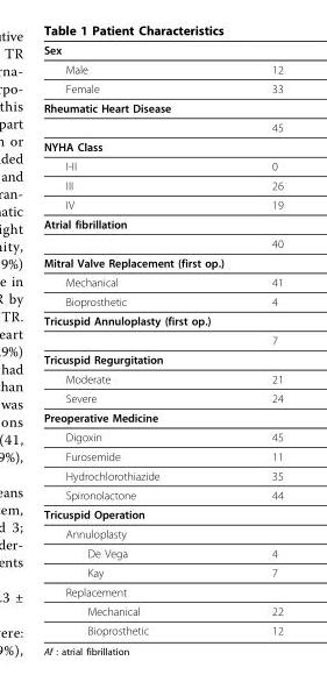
<table><thead><tr><td colspan="2">Sex</td></tr><tr><td>Male</td><td>12</td></tr></thead><tbody><tr><td>Female</td><td>33</td></tr><tr><td colspan="2">Rheumatic Heart Disease</td></tr><tr><td></td><td>45</td></tr><tr><td colspan="2">NYHA Class</td></tr><tr><td>I-II</td><td>0</td></tr><tr><td>III</td><td>26</td></tr><tr><td>IV</td><td>19</td></tr><tr><td colspan="2">Atrial fibrillation</td></tr><tr><td></td><td>40</td></tr><tr><td colspan="2">Mitral Valve Replacement (first op.)</td></tr><tr><td>Mechanical</td><td>41</td></tr><tr><td>Bioprosthetic</td><td>4</td></tr><tr><td colspan="2">Tricuspid Annuloplasty (first op.)</td></tr><tr><td></td><td>7</td></tr><tr><td colspan="2">Tricuspid Regurgitation</td></tr><tr><td>Moderate</td><td>21</td></tr><tr><td>Severe</td><td>24</td></tr><tr><td colspan="2">Preoperative Medicine</td></tr><tr><td>Digoxin</td><td>45</td></tr><tr><td>Furosemide</td><td>11</td></tr><tr><td>Hydrochlorothiazide</td><td>35</td></tr><tr><td>Spironolactone</td><td>44</td></tr><tr><td colspan="2">Tricuspid Operation</td></tr><tr><td colspan="2">Annuloplasty</td></tr><tr><td>De Vega</td><td>4</td></tr><tr><td>Kay</td><td>7</td></tr><tr><td colspan="2">Replacement</td></tr><tr><td>Mechanical</td><td>22</td></tr><tr><td>Bioprosthetic</td><td>12</td></tr></tbody></table>